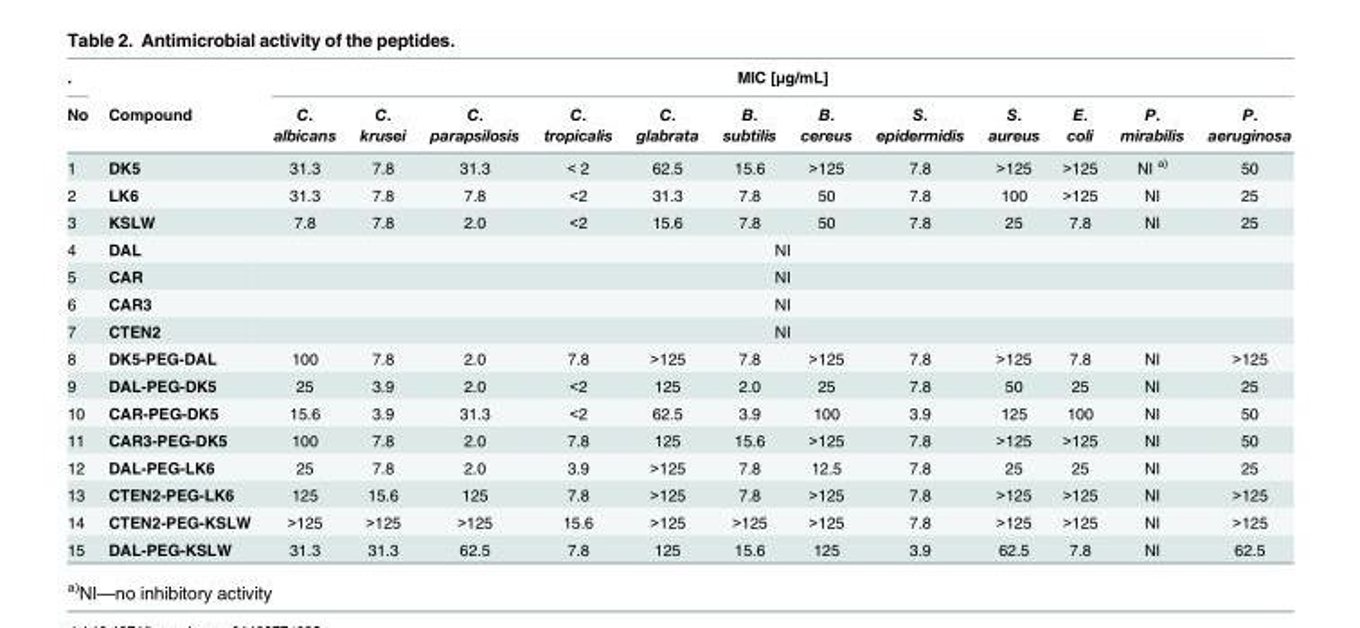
<table><thead><tr><td rowspan="2">. No</td><td rowspan="2">Compound</td><td colspan="12">MIC [μg/mL]</td></tr><tr><td>C. albicans</td><td>C. krusei</td><td>C. parapsilosis</td><td>C. tropicalis</td><td>C. glabrata</td><td>B. subtilis</td><td>B. cereus</td><td>S. epidermidis</td><td>S. aureus</td><td>E. coli</td><td>P. mirabilis</td><td>P. aeruginosa</td></tr></thead><tbody><tr><td>1</td><td>DK5</td><td>31.3</td><td>7.8</td><td>31.3</td><td>&lt; 2</td><td>62.5</td><td>15.6</td><td>&gt;125</td><td>7.8</td><td>&gt;125</td><td>&gt;125</td><td>NI <sup>a)</sup></td><td>50</td></tr><tr><td>2</td><td>LK6</td><td>31.3</td><td>7.8</td><td>7.8</td><td>&lt;2</td><td>31.3</td><td>7.8</td><td>50</td><td>7.8</td><td>100</td><td>&gt;125</td><td>NI</td><td>25</td></tr><tr><td>3</td><td>KSLW</td><td>7.8</td><td>7.8</td><td>2.0</td><td>&lt;2</td><td>15.6</td><td>7.8</td><td>50</td><td>7.8</td><td>25</td><td>7.8</td><td>NI</td><td>25</td></tr><tr><td>4</td><td>DAL</td><td colspan="12">NI</td></tr><tr><td>5</td><td>CAR</td><td colspan="12">NI</td></tr><tr><td>6</td><td>CAR3</td><td colspan="12">NI</td></tr><tr><td>7</td><td>CTEN2</td><td colspan="12">NI</td></tr><tr><td>8</td><td>DK5-PEG-DAL</td><td>100</td><td>7.8</td><td>2.0</td><td>7.8</td><td>&gt;125</td><td>7.8</td><td>&gt;125</td><td>7.8</td><td>&gt;125</td><td>7.8</td><td>NI</td><td>&gt;125</td></tr><tr><td>9</td><td>DAL-PEG-DK5</td><td>25</td><td>3.9</td><td>2.0</td><td>&lt;2</td><td>125</td><td>2.0</td><td>25</td><td>7.8</td><td>50</td><td>25</td><td>NI</td><td>25</td></tr><tr><td>10</td><td>CAR-PEG-DK5</td><td>15.6</td><td>3.9</td><td>31.3</td><td>&lt;2</td><td>62.5</td><td>3.9</td><td>100</td><td>3.9</td><td>125</td><td>100</td><td>NI</td><td>50</td></tr><tr><td>11</td><td>CAR3-PEG-DK5</td><td>100</td><td>7.8</td><td>2.0</td><td>7.8</td><td>125</td><td>15.6</td><td>&gt;125</td><td>7.8</td><td>&gt;125</td><td>&gt;125</td><td>NI</td><td>50</td></tr><tr><td>12</td><td>DAL-PEG-LK6</td><td>25</td><td>7.8</td><td>2.0</td><td>3.9</td><td>&gt;125</td><td>7.8</td><td>12.5</td><td>7.8</td><td>25</td><td>25</td><td>NI</td><td>25</td></tr><tr><td>13</td><td>CTEN2-PEG-LK6</td><td>125</td><td>15.6</td><td>125</td><td>7.8</td><td>&gt;125</td><td>7.8</td><td>&gt;125</td><td>7.8</td><td>&gt;125</td><td>&gt;125</td><td>NI</td><td>&gt;125</td></tr><tr><td>14</td><td>CTEN2-PEG-KSLW</td><td>&gt;125</td><td>&gt;125</td><td>&gt;125</td><td>15.6</td><td>&gt;125</td><td>&gt;125</td><td>&gt;125</td><td>7.8</td><td>&gt;125</td><td>&gt;125</td><td>NI</td><td>&gt;125</td></tr><tr><td>15</td><td>DAL-PEG-KSLW</td><td>31.3</td><td>31.3</td><td>62.5</td><td>7.8</td><td>125</td><td>15.6</td><td>125</td><td>3.9</td><td>62.5</td><td>7.8</td><td>NI</td><td>62.5</td></tr></tbody></table>